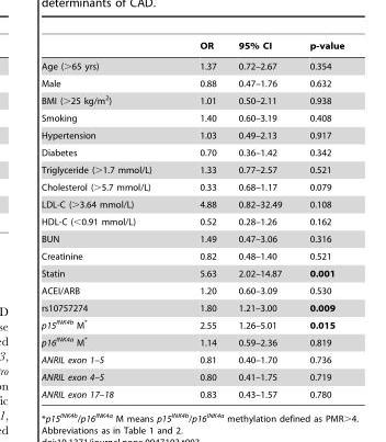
<table><thead><tr><td></td><td>OR</td><td>95% CI</td><td>p-value</td></tr></thead><tbody><tr><td>Age (&gt;65 yrs)</td><td>1.37</td><td>0.72–2.67</td><td>0.354</td></tr><tr><td>Male</td><td>0.88</td><td>0.47–1.76</td><td>0.632</td></tr><tr><td>BMI (&gt;25 kg/m<sup>2</sup>)</td><td>1.01</td><td>0.50–2.11</td><td>0.938</td></tr><tr><td>Smoking</td><td>1.40</td><td>0.60–3.19</td><td>0.408</td></tr><tr><td>Hypertension</td><td>1.03</td><td>0.49–2.13</td><td>0.917</td></tr><tr><td>Diabetes</td><td>0.70</td><td>0.36–1.42</td><td>0.342</td></tr><tr><td>Triglyceride (&gt;1.7 mmol/L)</td><td>1.33</td><td>0.77–2.57</td><td>0.521</td></tr><tr><td>Cholesterol (&gt;5.7 mmol/L)</td><td>0.33</td><td>0.68–1.17</td><td>0.079</td></tr><tr><td>LDL-C (&gt;3.64 mmol/L)</td><td>4.88</td><td>0.82–32.49</td><td>0.108</td></tr><tr><td>HDL-C (&lt;0.91 mmol/L)</td><td>0.52</td><td>0.28–1.26</td><td>0.162</td></tr><tr><td>BUN</td><td>1.49</td><td>0.47–3.06</td><td>0.316</td></tr><tr><td>Creatinine</td><td>0.82</td><td>0.48–1.40</td><td>0.521</td></tr><tr><td>Statin</td><td>5.63</td><td>2.02–14.87</td><td>0.001</td></tr><tr><td>ACEI/ARB</td><td>1.20</td><td>0.60–3.09</td><td>0.530</td></tr><tr><td>rs10757274</td><td>1.80</td><td>1.21–3.00</td><td>0.009</td></tr><tr><td>p15<sup>INK4b</sup> M*</td><td>2.55</td><td>1.26–5.01</td><td>0.015</td></tr><tr><td>p16<sup>INK4a</sup> M*</td><td>1.14</td><td>0.59–2.36</td><td>0.819</td></tr><tr><td>ANRIL exon 1–5</td><td>0.81</td><td>0.40–1.70</td><td>0.736</td></tr><tr><td>ANRIL exon 4–5</td><td>0.80</td><td>0.41–1.75</td><td>0.719</td></tr><tr><td>ANRIL exon 17–18</td><td>0.83</td><td>0.43–1.57</td><td>0.780</td></tr></tbody></table>